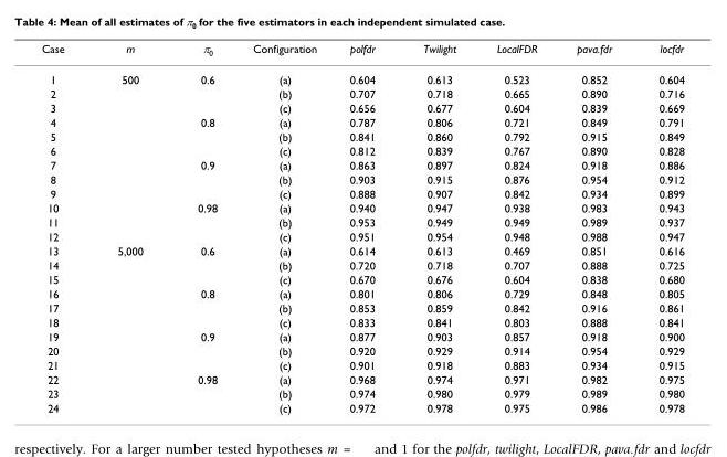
<table><thead><tr><td>Case</td><td>m</td><td>π<sub>0</sub></td><td>Configuration</td><td>polfdr</td><td>Twilight</td><td>LocalFDR</td><td>pava.fdr</td><td>locfdr</td></tr></thead><tbody><tr><td>1</td><td>500</td><td>0.6</td><td>(a)</td><td>0.604</td><td>0.613</td><td>0.523</td><td>0.852</td><td>0.604</td></tr><tr><td>2</td><td></td><td></td><td>(b)</td><td>0.707</td><td>0.718</td><td>0.665</td><td>0.890</td><td>0.716</td></tr><tr><td>3</td><td></td><td></td><td>(c)</td><td>0.656</td><td>0.677</td><td>0.604</td><td>0.839</td><td>0.669</td></tr><tr><td>4</td><td></td><td>0.8</td><td>(a)</td><td>0.787</td><td>0.806</td><td>0.721</td><td>0.849</td><td>0.791</td></tr><tr><td>5</td><td></td><td></td><td>(b)</td><td>0.841</td><td>0.860</td><td>0.792</td><td>0.915</td><td>0.849</td></tr><tr><td>6</td><td></td><td></td><td>(c)</td><td>0.812</td><td>0.839</td><td>0.767</td><td>0.890</td><td>0.828</td></tr><tr><td>7</td><td></td><td>0.9</td><td>(a)</td><td>0.863</td><td>0.897</td><td>0.824</td><td>0.918</td><td>0.886</td></tr><tr><td>8</td><td></td><td></td><td>(b)</td><td>0.903</td><td>0.915</td><td>0.876</td><td>0.954</td><td>0.912</td></tr><tr><td>9</td><td></td><td></td><td>(c)</td><td>0.888</td><td>0.907</td><td>0.842</td><td>0.934</td><td>0.899</td></tr><tr><td>10</td><td></td><td>0.98</td><td>(a)</td><td>0.940</td><td>0.947</td><td>0.938</td><td>0.983</td><td>0.943</td></tr><tr><td>11</td><td></td><td></td><td>(b)</td><td>0.953</td><td>0.949</td><td>0.949</td><td>0.989</td><td>0.937</td></tr><tr><td>12</td><td></td><td></td><td>(c)</td><td>0.951</td><td>0.954</td><td>0.948</td><td>0.988</td><td>0.947</td></tr><tr><td>13</td><td>5,000</td><td>0.6</td><td>(a)</td><td>0.614</td><td>0.613</td><td>0.469</td><td>0.851</td><td>0.616</td></tr><tr><td>14</td><td></td><td></td><td>(b)</td><td>0.720</td><td>0.718</td><td>0.707</td><td>0.888</td><td>0.725</td></tr><tr><td>15</td><td></td><td></td><td>(c)</td><td>0.670</td><td>0.676</td><td>0.604</td><td>0.838</td><td>0.680</td></tr><tr><td>16</td><td></td><td>0.8</td><td>(a)</td><td>0.801</td><td>0.806</td><td>0.729</td><td>0.848</td><td>0.805</td></tr><tr><td>17</td><td></td><td></td><td>(b)</td><td>0.853</td><td>0.859</td><td>0.842</td><td>0.916</td><td>0.861</td></tr><tr><td>18</td><td></td><td></td><td>(c)</td><td>0.833</td><td>0.841</td><td>0.803</td><td>0.888</td><td>0.841</td></tr><tr><td>19</td><td></td><td>0.9</td><td>(a)</td><td>0.877</td><td>0.903</td><td>0.857</td><td>0.918</td><td>0.900</td></tr><tr><td>20</td><td></td><td></td><td>(b)</td><td>0.920</td><td>0.929</td><td>0.914</td><td>0.954</td><td>0.929</td></tr><tr><td>21</td><td></td><td></td><td>(c)</td><td>0.901</td><td>0.918</td><td>0.883</td><td>0.934</td><td>0.915</td></tr><tr><td>22</td><td></td><td>0.98</td><td>(a)</td><td>0.968</td><td>0.974</td><td>0.971</td><td>0.982</td><td>0.975</td></tr><tr><td>23</td><td></td><td></td><td>(b)</td><td>0.974</td><td>0.980</td><td>0.979</td><td>0.989</td><td>0.980</td></tr><tr><td>24</td><td></td><td></td><td>(c)</td><td>0.972</td><td>0.978</td><td>0.975</td><td>0.986</td><td>0.978</td></tr></tbody></table>